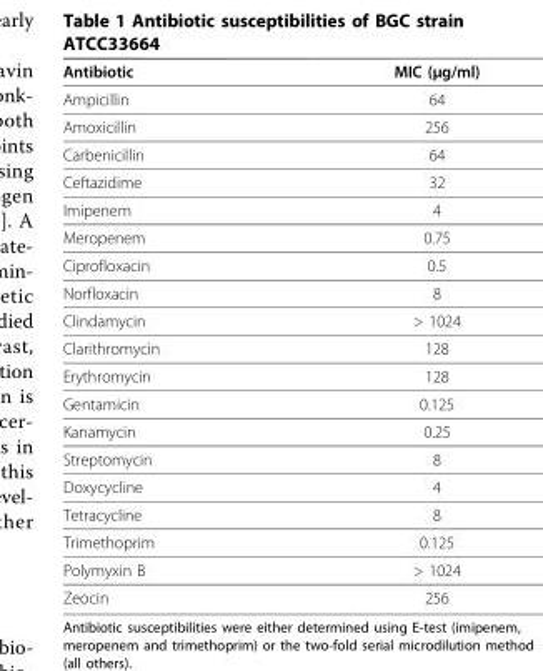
<table><thead><tr><td>Antibiotic</td><td>MIC (μg/ml)</td></tr></thead><tbody><tr><td>Ampicillin</td><td>64</td></tr><tr><td>Amoxicillin</td><td>256</td></tr><tr><td>Carbenicillin</td><td>64</td></tr><tr><td>Ceftazidime</td><td>32</td></tr><tr><td>Imipenem</td><td>4</td></tr><tr><td>Meropenem</td><td>0.75</td></tr><tr><td>Ciprofloxacin</td><td>0.5</td></tr><tr><td>Norfloxacin</td><td>8</td></tr><tr><td>Clindamycin</td><td>&gt; 1024</td></tr><tr><td>Clarithromycin</td><td>128</td></tr><tr><td>Erythromycin</td><td>128</td></tr><tr><td>Gentamicin</td><td>0.125</td></tr><tr><td>Kanamycin</td><td>0.25</td></tr><tr><td>Streptomycin</td><td>8</td></tr><tr><td>Doxycycline</td><td>4</td></tr><tr><td>Tetracycline</td><td>8</td></tr><tr><td>Trimethoprim</td><td>0.125</td></tr><tr><td>Polymyxin B</td><td>&gt; 1024</td></tr><tr><td>Zeocin</td><td>256</td></tr></tbody></table>